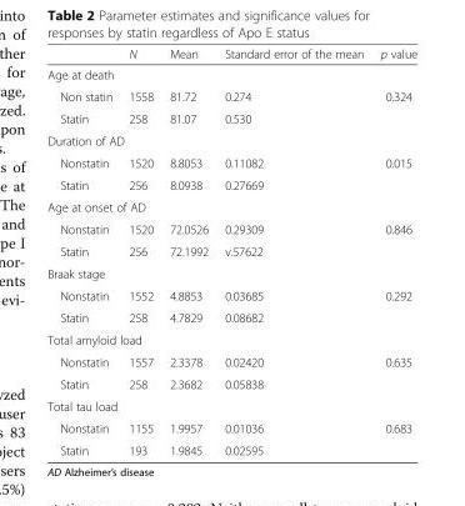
<table><thead><tr><td></td><td>N</td><td>Mean</td><td>Standard error of the mean</td><td>p value</td></tr></thead><tbody><tr><td colspan="5">Age at death</td></tr><tr><td>Non statin</td><td>1558</td><td>81.72</td><td>0.274</td><td>0.324</td></tr><tr><td>Statin</td><td>258</td><td>81.07</td><td>0.530</td><td></td></tr><tr><td colspan="5">Duration of AD</td></tr><tr><td>Nonstatin</td><td>1520</td><td>8.8053</td><td>0.11082</td><td>0.015</td></tr><tr><td>Statin</td><td>256</td><td>8.0938</td><td>0.27669</td><td></td></tr><tr><td colspan="5">Age at onset of AD</td></tr><tr><td>Nonstatin</td><td>1520</td><td>72.0526</td><td>0.29309</td><td>0.846</td></tr><tr><td>Statin</td><td>256</td><td>72.1992</td><td>v.57622</td><td></td></tr><tr><td colspan="5">Braak stage</td></tr><tr><td>Nonstatin</td><td>1552</td><td>4.8853</td><td>0.03685</td><td>0.292</td></tr><tr><td>Statin</td><td>258</td><td>4.7829</td><td>0.08682</td><td></td></tr><tr><td colspan="5">Total amyloid load</td></tr><tr><td>Nonstatin</td><td>1557</td><td>2.3378</td><td>0.02420</td><td>0.635</td></tr><tr><td>Statin</td><td>258</td><td>2.3682</td><td>0.05838</td><td></td></tr><tr><td colspan="5">Total tau load</td></tr><tr><td>Nonstatin</td><td>1155</td><td>1.9957</td><td>0.01036</td><td>0.683</td></tr><tr><td>Statin</td><td>193</td><td>1.9845</td><td>0.02595</td><td></td></tr></tbody></table>